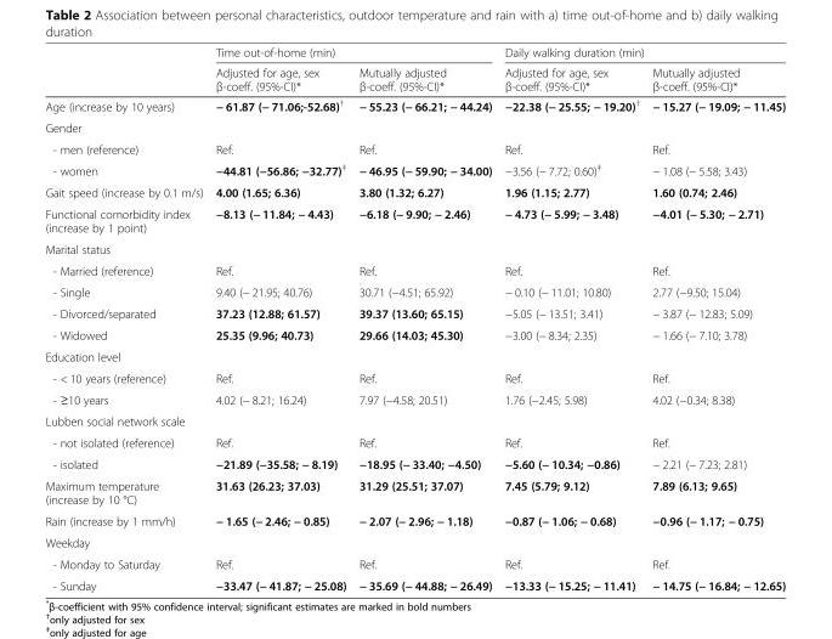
<table><thead><tr><td rowspan="2"></td><td colspan="2">Time out-of-home (min)</td><td colspan="2">Daily walking duration (min)</td></tr><tr><td>Adjusted for age, sex β-coeff. (95%-CI)*</td><td>Mutually adjusted β-coeff. (95%-CI)*</td><td>Adjusted for age, sex β-coeff. (95%-CI)*</td><td>Mutually adjusted β-coeff. (95%-CI)*</td></tr></thead><tbody><tr><td>Age (increase by 10 years)</td><td>− 61.87 (− 71.06;-52.68)<sup>†</sup></td><td>− 55.23 (− 66.21; − 44.24)</td><td>−22.38 (− 25.55; − 19.20)<sup>†</sup></td><td>− 15.27 (− 19.09; − 11.45)</td></tr><tr><td colspan="5">Gender</td></tr><tr><td>- men (reference)</td><td>Ref.</td><td>Ref.</td><td>Ref.</td><td>Ref.</td></tr><tr><td>- women</td><td>−44.81 (−56.86; −32.77)<sup>‡</sup></td><td>− 46.95 (− 59.90; − 34.00)</td><td>−3.56 (− 7.72; 0.60)<sup>‡</sup></td><td>− 1.08 (− 5.58; 3.43)</td></tr><tr><td>Gait speed (increase by 0.1 m/s)</td><td>4.00 (1.65; 6.36)</td><td>3.80 (1.32; 6.27)</td><td>1.96 (1.15; 2.77)</td><td>1.60 (0.74; 2.46)</td></tr><tr><td>Functional comorbidity index (increase by 1 point)</td><td>−8.13 (− 11.84; − 4.43)</td><td>−6.18 (− 9.90; − 2.46)</td><td>− 4.73 (− 5.99; − 3.48)</td><td>−4.01 (− 5.30; − 2.71)</td></tr><tr><td colspan="5">Marital status</td></tr><tr><td>- Married (reference)</td><td>Ref.</td><td>Ref.</td><td>Ref.</td><td>Ref.</td></tr><tr><td>- Single</td><td>9.40 (− 21.95; 40.76)</td><td>30.71 (−4.51; 65.92)</td><td>− 0.10 (− 11.01; 10.80)</td><td>2.77 (−9.50; 15.04)</td></tr><tr><td>- Divorced/separated</td><td>37.23 (12.88; 61.57)</td><td>39.37 (13.60; 65.15)</td><td>−5.05 (− 13.51; 3.41)</td><td>− 3.87 (− 12.83; 5.09)</td></tr><tr><td>- Widowed</td><td>25.35 (9.96; 40.73)</td><td>29.66 (14.03; 45.30)</td><td>−3.00 (− 8.34; 2.35)</td><td>− 1.66 (− 7.10; 3.78)</td></tr><tr><td colspan="5">Education level</td></tr><tr><td>- &lt; 10 years (reference)</td><td>Ref.</td><td>Ref.</td><td>Ref.</td><td>Ref.</td></tr><tr><td>- ≥10 years</td><td>4.02 (− 8.21; 16.24)</td><td>7.97 (−4.58; 20.51)</td><td>1.76 (−2.45; 5.98)</td><td>4.02 (−0.34; 8.38)</td></tr><tr><td colspan="5">Lubben social network scale</td></tr><tr><td>- not isolated (reference)</td><td>Ref.</td><td>Ref.</td><td>Ref.</td><td>Ref.</td></tr><tr><td>- isolated</td><td>−21.89 (−35.58; − 8.19)</td><td>−18.95 (− 33.40; −4.50)</td><td>−5.60 (− 10.34; −0.86)</td><td>− 2.21 (− 7.23; 2.81)</td></tr><tr><td>Maximum temperature (increase by 10 °C)</td><td>31.63 (26.23; 37.03)</td><td>31.29 (25.51; 37.07)</td><td>7.45 (5.79; 9.12)</td><td>7.89 (6.13; 9.65)</td></tr><tr><td>Rain (increase by 1 mm/h)</td><td>− 1.65 (− 2.46; − 0.85)</td><td>− 2.07 (− 2.96; − 1.18)</td><td>−0.87 (− 1.06; − 0.68)</td><td>−0.96 (− 1.17; − 0.75)</td></tr><tr><td colspan="5">Weekday</td></tr><tr><td>- Monday to Saturday</td><td>Ref.</td><td>Ref.</td><td>Ref.</td><td>Ref.</td></tr><tr><td>- Sunday</td><td>−33.47 (− 41.87; − 25.08)</td><td>− 35.69 (− 44.88; − 26.49)</td><td>−13.33 (− 15.25; − 11.41)</td><td>− 14.75 (− 16.84; − 12.65)</td></tr></tbody></table>